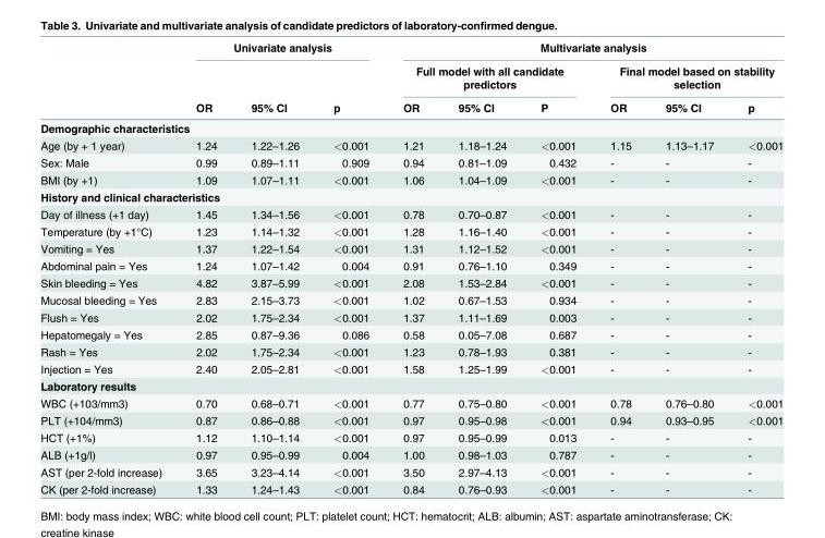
<table><thead><tr><td rowspan="3"></td><td colspan="3">Univariate analysis</td><td colspan="6">Multivariate analysis</td></tr><tr><td rowspan="2">OR</td><td rowspan="2">95% CI</td><td rowspan="2">p</td><td colspan="3">Full model with all candidate predictors</td><td colspan="3">Final model based on stability selection</td></tr><tr><td>OR</td><td>95% CI</td><td>P</td><td>OR</td><td>95% CI</td><td>p</td></tr></thead><tbody><tr><td colspan="10">Demographic characteristics</td></tr><tr><td>Age (by + 1 year)</td><td>1.24</td><td>1.22–1.26</td><td>&lt;0.001</td><td>1.21</td><td>1.18–1.24</td><td>&lt;0.001</td><td>1.15</td><td>1.13–1.17</td><td>&lt;0.001</td></tr><tr><td>Sex: Male</td><td>0.99</td><td>0.89–1.11</td><td>0.909</td><td>0.94</td><td>0.81–1.09</td><td>0.432</td><td>-</td><td>-</td><td>-</td></tr><tr><td>BMI (by +1)</td><td>1.09</td><td>1.07–1.11</td><td>&lt;0.001</td><td>1.06</td><td>1.04–1.09</td><td>&lt;0.001</td><td>-</td><td>-</td><td>-</td></tr><tr><td colspan="10">History and clinical characteristics</td></tr><tr><td>Day of illness (+1 day)</td><td>1.45</td><td>1.34–1.56</td><td>&lt;0.001</td><td>0.78</td><td>0.70–0.87</td><td>&lt;0.001</td><td>-</td><td>-</td><td>-</td></tr><tr><td>Temperature (by +1°C)</td><td>1.23</td><td>1.14–1.32</td><td>&lt;0.001</td><td>1.28</td><td>1.16–1.40</td><td>&lt;0.001</td><td>-</td><td>-</td><td>-</td></tr><tr><td>Vomiting = Yes</td><td>1.37</td><td>1.22–1.54</td><td>&lt;0.001</td><td>1.31</td><td>1.12–1.52</td><td>&lt;0.001</td><td>-</td><td>-</td><td>-</td></tr><tr><td>Abdominal pain = Yes</td><td>1.24</td><td>1.07–1.42</td><td>0.004</td><td>0.91</td><td>0.76–1.10</td><td>0.349</td><td>-</td><td>-</td><td>-</td></tr><tr><td>Skin bleeding = Yes</td><td>4.82</td><td>3.87–5.99</td><td>&lt;0.001</td><td>2.08</td><td>1.53–2.84</td><td>&lt;0.001</td><td>-</td><td>-</td><td>-</td></tr><tr><td>Mucosal bleeding = Yes</td><td>2.83</td><td>2.15–3.73</td><td>&lt;0.001</td><td>1.02</td><td>0.67–1.53</td><td>0.934</td><td>-</td><td>-</td><td>-</td></tr><tr><td>Flush = Yes</td><td>2.02</td><td>1.75–2.34</td><td>&lt;0.001</td><td>1.37</td><td>1.11–1.69</td><td>0.003</td><td>-</td><td>-</td><td>-</td></tr><tr><td>Hepatomegaly = Yes</td><td>2.85</td><td>0.87–9.36</td><td>0.086</td><td>0.58</td><td>0.05–7.08</td><td>0.687</td><td>-</td><td>-</td><td>-</td></tr><tr><td>Rash = Yes</td><td>2.02</td><td>1.75–2.34</td><td>&lt;0.001</td><td>1.23</td><td>0.78–1.93</td><td>0.381</td><td>-</td><td>-</td><td>-</td></tr><tr><td>Injection = Yes</td><td>2.40</td><td>2.05–2.81</td><td>&lt;0.001</td><td>1.58</td><td>1.25–1.99</td><td>&lt;0.001</td><td>-</td><td>-</td><td>-</td></tr><tr><td colspan="10">Laboratory results</td></tr><tr><td>WBC (+103/mm3)</td><td>0.70</td><td>0.68–0.71</td><td>&lt;0.001</td><td>0.77</td><td>0.75–0.80</td><td>&lt;0.001</td><td>0.78</td><td>0.76–0.80</td><td>&lt;0.001</td></tr><tr><td>PLT (+104/mm3)</td><td>0.87</td><td>0.86–0.88</td><td>&lt;0.001</td><td>0.97</td><td>0.95–0.98</td><td>&lt;0.001</td><td>0.94</td><td>0.93–0.95</td><td>&lt;0.001</td></tr><tr><td>HCT (+1%)</td><td>1.12</td><td>1.10–1.14</td><td>&lt;0.001</td><td>0.97</td><td>0.95–0.99</td><td>0.013</td><td>-</td><td>-</td><td>-</td></tr><tr><td>ALB (+1g/l)</td><td>0.97</td><td>0.95–0.99</td><td>0.004</td><td>1.00</td><td>0.98–1.03</td><td>0.787</td><td>-</td><td>-</td><td>-</td></tr><tr><td>AST (per 2-fold increase)</td><td>3.65</td><td>3.23–4.14</td><td>&lt;0.001</td><td>3.50</td><td>2.97–4.13</td><td>&lt;0.001</td><td>-</td><td>-</td><td>-</td></tr><tr><td>CK (per 2-fold increase)</td><td>1.33</td><td>1.24–1.43</td><td>&lt;0.001</td><td>0.84</td><td>0.76–0.93</td><td>&lt;0.001</td><td>-</td><td>-</td><td>-</td></tr></tbody></table>